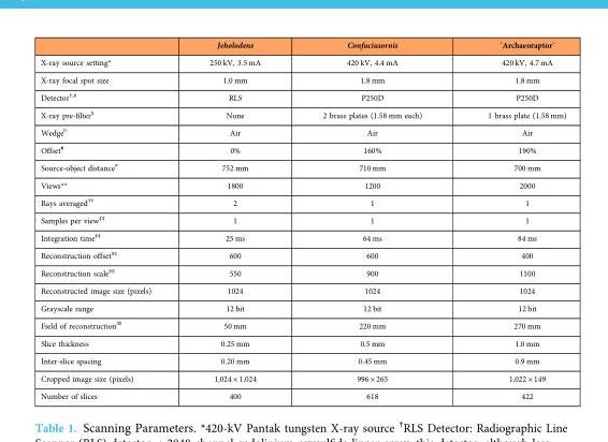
<table><thead><tr><td></td><td>Jeholodens</td><td>Confuciusornis</td><td>‘Archaeoraptor’</td></tr></thead><tbody><tr><td>X-ray source setting*</td><td>250 kV, 3.5 mA</td><td>420 kV, 4.4 mA</td><td>420 kV, 4.7 mA</td></tr><tr><td>X-ray focal spot size</td><td>1.0 mm</td><td>1.8 mm</td><td>1.8 mm</td></tr><tr><td>Detector†,‡</td><td>RLS</td><td>P250D</td><td>P250D</td></tr><tr><td>X-ray pre-filter§</td><td>None</td><td>2 brass plates (1.58 mm each)</td><td>1 brass plate (1.58 mm)</td></tr><tr><td>Wedge||</td><td>Air</td><td>Air</td><td>Air</td></tr><tr><td>Offset¶</td><td>0%</td><td>160%</td><td>190%</td></tr><tr><td>Source-object distance#</td><td>752 mm</td><td>710 mm</td><td>700 mm</td></tr><tr><td>Views**</td><td>1800</td><td>1200</td><td>2000</td></tr><tr><td>Rays averaged††</td><td>2</td><td>1</td><td>1</td></tr><tr><td>Samples per view‡‡</td><td>1</td><td>1</td><td>1</td></tr><tr><td>Integration time‡‡</td><td>25 ms</td><td>64 ms</td><td>84 ms</td></tr><tr><td>Reconstruction offset§§</td><td>600</td><td>600</td><td>400</td></tr><tr><td>Reconstruction scale§§</td><td>550</td><td>900</td><td>1100</td></tr><tr><td>Reconstructed image size (pixels)</td><td>1024</td><td>1024</td><td>1024</td></tr><tr><td>Grayscale range</td><td>12 bit</td><td>12 bit</td><td>12 bit</td></tr><tr><td>Field of reconstruction||||</td><td>50 mm</td><td>220 mm</td><td>270 mm</td></tr><tr><td>Slice thickness</td><td>0.25 mm</td><td>0.5 mm</td><td>1.0 mm</td></tr><tr><td>Inter-slice spacing</td><td>0.20 mm</td><td>0.45 mm</td><td>0.9 mm</td></tr><tr><td>Cropped image size (pixels)</td><td>1,024 × 1,024</td><td>996 × 265</td><td>1,022 × 149</td></tr><tr><td>Number of slices</td><td>400</td><td>618</td><td>422</td></tr></tbody></table>